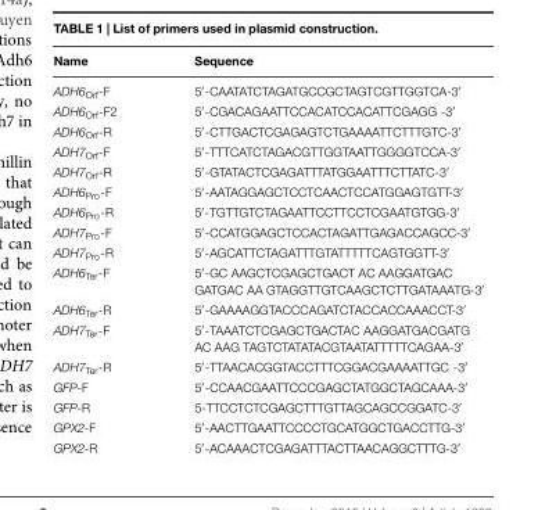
<table><thead><tr><td>Name</td><td>Sequence</td></tr></thead><tbody><tr><td>ADH6<sub>Orf</sub>-F</td><td>5′-CAATATCTAGATGCCGCTAGTCGTTGGTCA-3′</td></tr><tr><td>ADH6<sub>Orf</sub>-F2</td><td>5′-CGACAGAATTCCACATCCACATTCGAGG -3′</td></tr><tr><td>ADH6<sub>Orf</sub>-R</td><td>5′-CTTGACTCGAGAGTCTGAAAATTCTTTGTC-3′</td></tr><tr><td>ADH7<sub>Orf</sub>-F</td><td>5′-TTTCATCTAGACGTTGGTAATTGGGGTCCA-3′</td></tr><tr><td>ADH7<sub>Orf</sub>-R</td><td>5′-GTATACTCGAGATTTATGGAATTTCTTATC-3′</td></tr><tr><td>ADH6<sub>Pro</sub>-F</td><td>5′-AATAGGAGCTCCTCAACTCCATGGAGTGTT-3′</td></tr><tr><td>ADH6<sub>Pro</sub>-R</td><td>5′-TGTTGTCTAGAATTCCTTCCTCGAATGTGG-3′</td></tr><tr><td>ADH7<sub>Pro</sub>-F</td><td>5′-CCATGGAGCTCCACTAGATTGAGACCAGCC-3′</td></tr><tr><td>ADH7<sub>Pro</sub>-R</td><td>5′-AGCATTCTAGATTTGTATTTTTCAGTGGTT-3′</td></tr><tr><td>ADH6<sub>Ter</sub>-F</td><td>5′-GC AAGCTCGAGCTGACT AC AAGGATGAC GATGAC AA GTAGGTTGTCAAGCTCTTGATAAATG-3′</td></tr><tr><td>ADH6<sub>Ter</sub>-R</td><td>5′-GAAAAGGTACCCAGATCTACCACCAAACCT-3′</td></tr><tr><td>ADH7<sub>Ter</sub>-F</td><td>5′-TAAATCTCGAGCTGACTAC AAGGATGACGATG AC AAG TAGTCTATATACGTAATATTTTTCAGAA-3′</td></tr><tr><td>ADH7<sub>Ter</sub>-R</td><td>5′-TTAACACGGTACCTTTCGGACGAAAATTGC -3′</td></tr><tr><td>GFP-F</td><td>5′-CCAACGAATTCCCGAGCTATGGCTAGCAAA-3′</td></tr><tr><td>GFP-R</td><td>5-TTCCTCTCGAGCTTTGTTAGCAGCCGGATC-3′</td></tr><tr><td>GPX2-F</td><td>5′-AACTTGAATTCCCCTGCATGGCTGACCTTG-3′</td></tr><tr><td>GPX2-R</td><td>5′-ACAAACTCGAGATTTACTTAACAGGCTTTG-3′</td></tr></tbody></table>